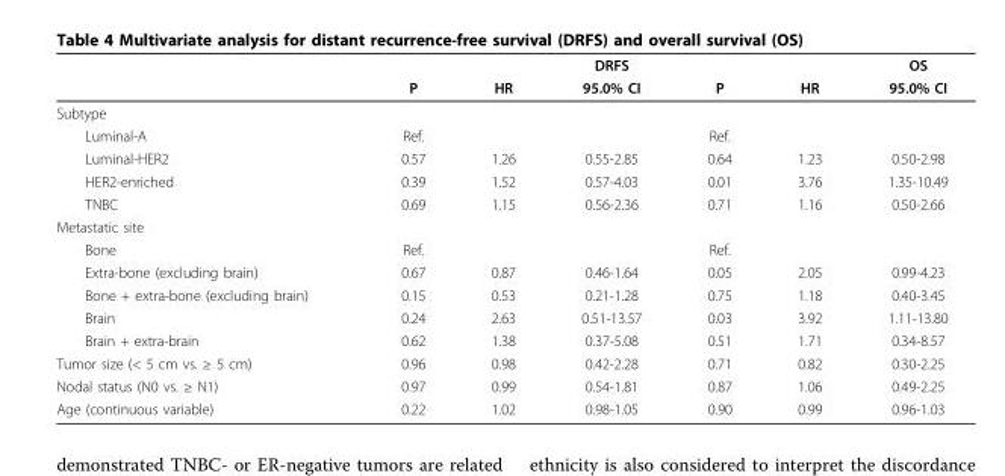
<table><thead><tr><td rowspan="2"></td><td rowspan="2">P</td><td rowspan="2">HR</td><td rowspan="2">DRFS 95.0% CI</td><td rowspan="2">P</td><td rowspan="2">HR</td><td rowspan="2">OS 95.0% CI</td></tr><tr></tr></thead><tbody><tr><td colspan="7">Subtype</td></tr><tr><td>Luminal-A</td><td>Ref.</td><td></td><td></td><td>Ref.</td><td></td><td></td></tr><tr><td>Luminal-HER2</td><td>0.57</td><td>1.26</td><td>0.55-2.85</td><td>0.64</td><td>1.23</td><td>0.50-2.98</td></tr><tr><td>HER2-enriched</td><td>0.39</td><td>1.52</td><td>0.57-4.03</td><td>0.01</td><td>3.76</td><td>1.35-10.49</td></tr><tr><td>TNBC</td><td>0.69</td><td>1.15</td><td>0.56-2.36</td><td>0.71</td><td>1.16</td><td>0.50-2.66</td></tr><tr><td colspan="7">Metastatic site</td></tr><tr><td>Bone</td><td>Ref.</td><td></td><td></td><td>Ref.</td><td></td><td></td></tr><tr><td>Extra-bone (excluding brain)</td><td>0.67</td><td>0.87</td><td>0.46-1.64</td><td>0.05</td><td>2.05</td><td>0.99-4.23</td></tr><tr><td>Bone + extra-bone (excluding brain)</td><td>0.15</td><td>0.53</td><td>0.21-1.28</td><td>0.75</td><td>1.18</td><td>0.40-3.45</td></tr><tr><td>Brain</td><td>0.24</td><td>2.63</td><td>0.51-13.57</td><td>0.03</td><td>3.92</td><td>1.11-13.80</td></tr><tr><td>Brain + extra-brain</td><td>0.62</td><td>1.38</td><td>0.37-5.08</td><td>0.51</td><td>1.71</td><td>0.34-8.57</td></tr><tr><td>Tumor size (&lt; 5 cm vs. ≥ 5 cm)</td><td>0.96</td><td>0.98</td><td>0.42-2.28</td><td>0.71</td><td>0.82</td><td>0.30-2.25</td></tr><tr><td>Nodal status (N0 vs. ≥ N1)</td><td>0.97</td><td>0.99</td><td>0.54-1.81</td><td>0.87</td><td>1.06</td><td>0.49-2.25</td></tr><tr><td>Age (continuous variable)</td><td>0.22</td><td>1.02</td><td>0.98-1.05</td><td>0.90</td><td>0.99</td><td>0.96-1.03</td></tr></tbody></table>